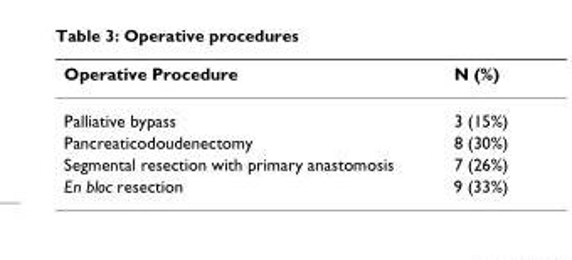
<table><thead><tr><td>Operative Procedure</td><td>N (%)</td></tr></thead><tbody><tr><td>Palliative bypass</td><td>3 (15%)</td></tr><tr><td>Pancreaticodoudenectomy</td><td>8 (30%)</td></tr><tr><td>Segmental resection with primary anastomosis</td><td>7 (26%)</td></tr><tr><td>En bloc resection</td><td>9 (33%)</td></tr></tbody></table>